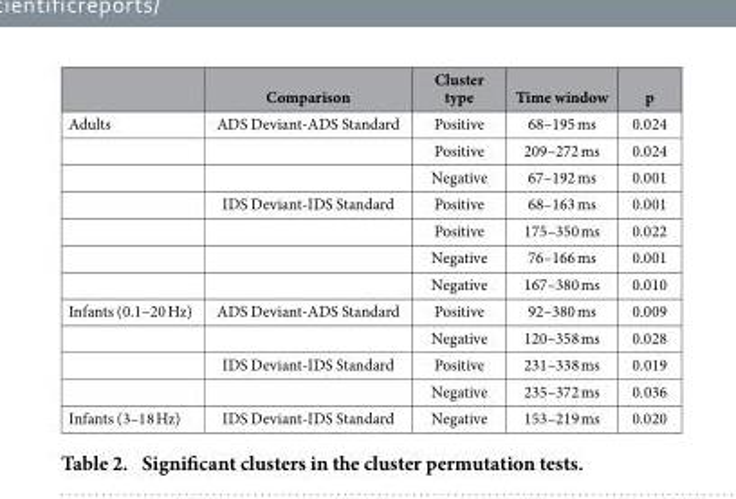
<table><thead><tr><td></td><td>Comparison</td><td>Cluster type</td><td>Time window</td><td>p</td></tr></thead><tbody><tr><td rowspan="7">Adults</td><td>ADS Deviant-ADS Standard</td><td>Positive</td><td>68–195 ms</td><td>0.024</td></tr><tr><td></td><td>Positive</td><td>209–272 ms</td><td>0.024</td></tr><tr><td></td><td>Negative</td><td>67–192 ms</td><td>0.001</td></tr><tr><td>IDS Deviant-IDS Standard</td><td>Positive</td><td>68–163 ms</td><td>0.001</td></tr><tr><td></td><td>Positive</td><td>175–350 ms</td><td>0.022</td></tr><tr><td></td><td>Negative</td><td>76–166 ms</td><td>0.001</td></tr><tr><td></td><td>Negative</td><td>167–380 ms</td><td>0.010</td></tr><tr><td rowspan="4">Infants (0.1–20 Hz)</td><td>ADS Deviant-ADS Standard</td><td>Positive</td><td>92–380 ms</td><td>0.009</td></tr><tr><td></td><td>Negative</td><td>120–358 ms</td><td>0.028</td></tr><tr><td>IDS Deviant-IDS Standard</td><td>Positive</td><td>231–338 ms</td><td>0.019</td></tr><tr><td></td><td>Negative</td><td>235–372 ms</td><td>0.036</td></tr><tr><td>Infants (3–18 Hz)</td><td>IDS Deviant-IDS Standard</td><td>Negative</td><td>153–219 ms</td><td>0.020</td></tr></tbody></table>